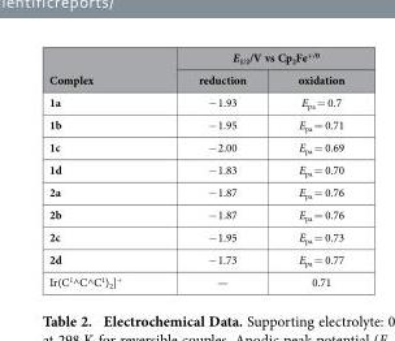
<table><thead><tr><td rowspan="2">Complex</td><td colspan="2">E<sub>1/2</sub>/V vs Cp<sub>2</sub>Fe<sup>+/0</sup></td></tr><tr><td>reduction</td><td>oxidation</td></tr></thead><tbody><tr><td>1a</td><td>− 1.93</td><td>E<sub>pa</sub> = 0.7</td></tr><tr><td>1b</td><td>− 1.95</td><td>E<sub>pa</sub> = 0.71</td></tr><tr><td>1c</td><td>− 2.00</td><td>E<sub>pa</sub> = 0.69</td></tr><tr><td>1d</td><td>− 1.83</td><td>E<sub>pa</sub> = 0.70</td></tr><tr><td>2a</td><td>− 1.87</td><td>E<sub>pa</sub> = 0.76</td></tr><tr><td>2b</td><td>− 1.87</td><td>E<sub>pa</sub> = 0.76</td></tr><tr><td>2c</td><td>− 1.95</td><td>E<sub>pa</sub> = 0.73</td></tr><tr><td>2d</td><td>− 1.73</td><td>E<sub>pa</sub> = 0.77</td></tr><tr><td>Ir(C1^C^C1)2]+</td><td>—</td><td>0.71</td></tr></tbody></table>